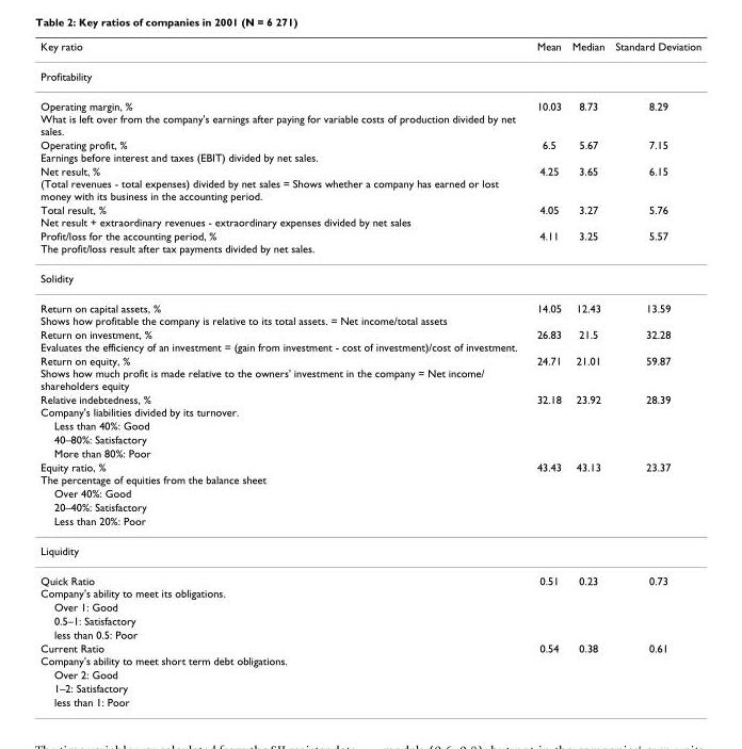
<table><thead><tr><td>Key ratio</td><td>Mean</td><td>Median</td><td>Standard Deviation</td></tr></thead><tbody><tr><td colspan="4">Profitability</td></tr><tr><td>Operating margin, % What is left over from the company&#x27;s earnings after paying for variable costs of production divided by net sales.</td><td>10.03</td><td>8.73</td><td>8.29</td></tr><tr><td>Operating profit, % Earnings before interest and taxes (EBIT) divided by net sales.</td><td>6.5</td><td>5.67</td><td>7.15</td></tr><tr><td>Net result, % (Total revenues - total expenses) divided by net sales = Shows whether a company has earned or lost money with its business in the accounting period.</td><td>4.25</td><td>3.65</td><td>6.15</td></tr><tr><td>Total result, % Net result + extraordinary revenues - extraordinary expenses divided by net sales</td><td>4.05</td><td>3.27</td><td>5.76</td></tr><tr><td>Profit/loss for the accounting period, % The profit/loss result after tax payments divided by net sales.</td><td>4.11</td><td>3.25</td><td>5.57</td></tr><tr><td colspan="4">Solidity</td></tr><tr><td>Return on capital assets, % Shows how profitable the company is relative to its total assets. = Net income/total assets</td><td>14.05</td><td>12.43</td><td>13.59</td></tr><tr><td>Return on investment, % Evaluates the efficiency of an investment = (gain from investment - cost of investment)/cost of investment.</td><td>26.83</td><td>21.5</td><td>32.28</td></tr><tr><td>Return on equity, % Shows how much profit is made relative to the owners&#x27; investment in the company = Net income/ shareholders equity</td><td>24.71</td><td>21.01</td><td>59.87</td></tr><tr><td>Relative indebtedness, % Company&#x27;s liabilities divided by its turnover.</td><td>32.18</td><td>23.92</td><td>28.39</td></tr><tr><td colspan="4">Less than 40%: Good</td></tr><tr><td colspan="4">40–80%: Satisfactory</td></tr><tr><td colspan="4">More than 80%: Poor</td></tr><tr><td>Equity ratio, % The percentage of equities from the balance sheet</td><td>43.43</td><td>43.13</td><td>23.37</td></tr><tr><td colspan="4">Over 40%: Good</td></tr><tr><td colspan="4">20–40%: Satisfactory</td></tr><tr><td colspan="4">Less than 20%: Poor</td></tr><tr><td colspan="4">Liquidity</td></tr><tr><td>Quick Ratio Company&#x27;s ability to meet its obligations.</td><td>0.51</td><td>0.23</td><td>0.73</td></tr><tr><td colspan="4">Over 1: Good</td></tr><tr><td colspan="4">0.5–1: Satisfactory</td></tr><tr><td colspan="4">less than 0.5: Poor</td></tr><tr><td>Current Ratio Company&#x27;s ability to meet short term debt obligations.</td><td>0.54</td><td>0.38</td><td>0.61</td></tr><tr><td colspan="4">Over 2: Good</td></tr><tr><td colspan="4">1–2: Satisfactory</td></tr><tr><td>less than 1: Poor</td><td></td><td></td><td></td></tr></tbody></table>